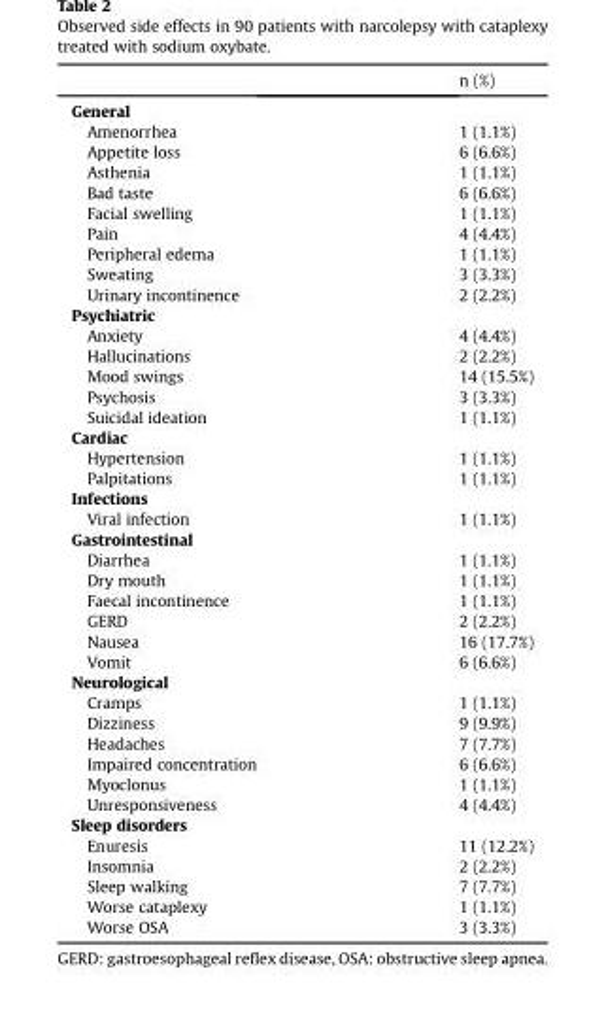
<table><thead><tr><td></td><td>n (%)</td></tr></thead><tbody><tr><td colspan="2">General</td></tr><tr><td>Amenorrhea</td><td>1 (1.1%)</td></tr><tr><td>Appetite loss</td><td>6 (6.6%)</td></tr><tr><td>Asthenia</td><td>1 (1.1%)</td></tr><tr><td>Bad taste</td><td>6 (6.6%)</td></tr><tr><td>Facial swelling</td><td>1 (1.1%)</td></tr><tr><td>Pain</td><td>4 (4.4%)</td></tr><tr><td>Peripheral edema</td><td>1 (1.1%)</td></tr><tr><td>Sweating</td><td>3 (3.3%)</td></tr><tr><td>Urinary incontinence</td><td>2 (2.2%)</td></tr><tr><td colspan="2">Psychiatric</td></tr><tr><td>Anxiety</td><td>4 (4.4%)</td></tr><tr><td>Hallucinations</td><td>2 (2.2%)</td></tr><tr><td>Mood swings</td><td>14 (15.5%)</td></tr><tr><td>Psychosis</td><td>3 (3.3%)</td></tr><tr><td>Suicidal ideation</td><td>1 (1.1%)</td></tr><tr><td colspan="2">Cardiac</td></tr><tr><td>Hypertension</td><td>1 (1.1%)</td></tr><tr><td>Palpitations</td><td>1 (1.1%)</td></tr><tr><td colspan="2">Infections</td></tr><tr><td>Viral infection</td><td>1 (1.1%)</td></tr><tr><td colspan="2">Gastrointestinal</td></tr><tr><td>Diarrhea</td><td>1 (1.1%)</td></tr><tr><td>Dry mouth</td><td>1 (1.1%)</td></tr><tr><td>Faecal incontinence</td><td>1 (1.1%)</td></tr><tr><td>GERD</td><td>2 (2.2%)</td></tr><tr><td>Nausea</td><td>16 (17.7%)</td></tr><tr><td>Vomit</td><td>6 (6.6%)</td></tr><tr><td colspan="2">Neurological</td></tr><tr><td>Cramps</td><td>1 (1.1%)</td></tr><tr><td>Dizziness</td><td>9 (9.9%)</td></tr><tr><td>Headaches</td><td>7 (7.7%)</td></tr><tr><td>Impaired concentration</td><td>6 (6.6%)</td></tr><tr><td>Myoclonus</td><td>1 (1.1%)</td></tr><tr><td>Unresponsiveness</td><td>4 (4.4%)</td></tr><tr><td colspan="2">Sleep disorders</td></tr><tr><td>Enuresis</td><td>11 (12.2%)</td></tr><tr><td>Insomnia</td><td>2 (2.2%)</td></tr><tr><td>Sleep walking</td><td>7 (7.7%)</td></tr><tr><td>Worse cataplexy</td><td>1 (1.1%)</td></tr><tr><td>Worse OSA</td><td>3 (3.3%)</td></tr></tbody></table>